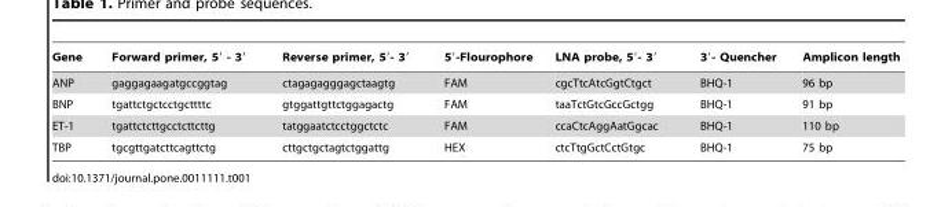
<table><thead><tr><td>Gene</td><td>Forward primer, 5′ - 3′</td><td>Reverse primer, 5′- 3′</td><td>5′-Flourophore</td><td>LNA probe, 5′- 3′</td><td>3′- Quencher</td><td>Amplicon length</td></tr></thead><tbody><tr><td>ANP</td><td>gaggagaagatgccggtag</td><td>ctagagagggagctaagtg</td><td>FAM</td><td>cgcTtcAtcGgtCtgct</td><td>BHQ-1</td><td>96 bp</td></tr><tr><td>BNP</td><td>tgattctgctcctgcttttc</td><td>gtggattgttctggagactg</td><td>FAM</td><td>taaTctGtcGccGctgg</td><td>BHQ-1</td><td>91 bp</td></tr><tr><td>ET-1</td><td>tgattctcttgcctcttcttg</td><td>tatggaatctcctggctctc</td><td>FAM</td><td>ccaCtcAggAatGgcac</td><td>BHQ-1</td><td>110 bp</td></tr><tr><td>TBP</td><td>tgcgttgatcttcagttctg</td><td>cttgctgctagtctggattg</td><td>HEX</td><td>ctcTtgGctCctGtgc</td><td>BHQ-1</td><td>75 bp</td></tr></tbody></table>